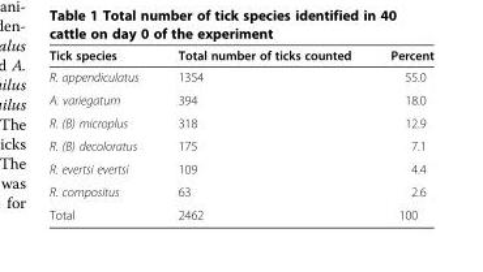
<table><thead><tr><td>Tick species</td><td>Total number of ticks counted</td><td>Percent</td></tr></thead><tbody><tr><td>R. appendiculatus</td><td>1354</td><td>55.0</td></tr><tr><td>A. variegatum</td><td>394</td><td>18.0</td></tr><tr><td>R. (B) microplus</td><td>318</td><td>12.9</td></tr><tr><td>R. (B) decoloratus</td><td>175</td><td>7.1</td></tr><tr><td>R. evertsi evertsi</td><td>109</td><td>4.4</td></tr><tr><td>R. compositus</td><td>63</td><td>2.6</td></tr><tr><td>Total</td><td>2462</td><td>100</td></tr></tbody></table>